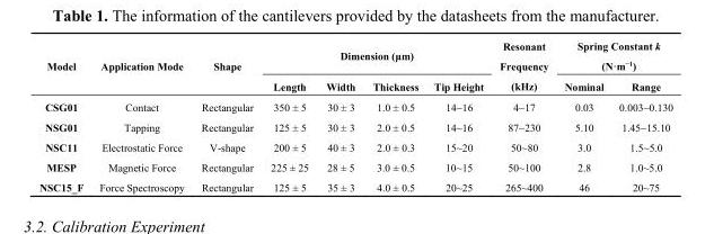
<table><thead><tr><td rowspan="2">Model</td><td rowspan="2">Application Mode</td><td rowspan="2">Shape</td><td colspan="4">Dimension (μm)</td><td rowspan="2">Resonant Frequency (kHz)</td><td colspan="2">Spring Constant k (N·m<sup>−1</sup>)</td></tr><tr><td>Length</td><td>Width</td><td>Thickness</td><td>Tip Height</td><td>Nominal</td><td>Range</td></tr></thead><tbody><tr><td>CSG01</td><td>Contact</td><td>Rectangular</td><td>350 ± 5</td><td>30 ± 3</td><td>1.0 ± 0.5</td><td>14~16</td><td>4~17</td><td>0.03</td><td>0.003~0.130</td></tr><tr><td>NSG01</td><td>Tapping</td><td>Rectangular</td><td>125 ± 5</td><td>30 ± 3</td><td>2.0 ± 0.5</td><td>14~16</td><td>87~230</td><td>5.10</td><td>1.45~15.10</td></tr><tr><td>NSC11</td><td>Electrostatic Force</td><td>V-shape</td><td>200 ± 5</td><td>40 ± 3</td><td>2.0 ± 0.3</td><td>15~20</td><td>50~80</td><td>3.0</td><td>1.5~5.0</td></tr><tr><td>MESP</td><td>Magnetic Force</td><td>Rectangular</td><td>225 ± 25</td><td>28 ± 5</td><td>3.0 ± 0.5</td><td>10~15</td><td>50~100</td><td>2.8</td><td>1.0~5.0</td></tr><tr><td>NSC15_F</td><td>Force Spectroscopy</td><td>Rectangular</td><td>125 ± 5</td><td>35 ± 3</td><td>4.0 ± 0.5</td><td>20~25</td><td>265~400</td><td>46</td><td>20~75</td></tr></tbody></table>